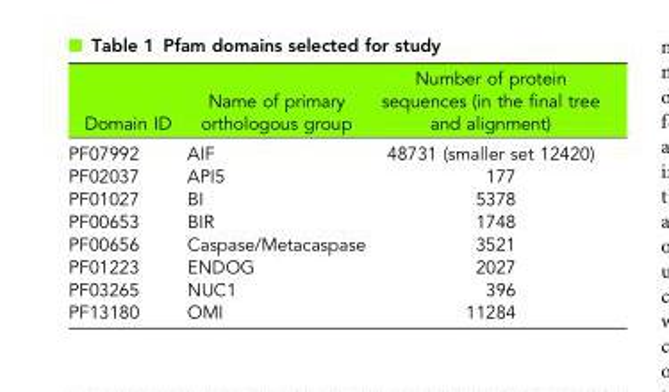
<table><thead><tr><td>Domain ID</td><td>Name of primary orthologous group</td><td>Number of protein sequences (in the final tree and alignment)</td></tr></thead><tbody><tr><td>PF07992</td><td>AIF</td><td>48731 (smaller set 12420)</td></tr><tr><td>PF02037</td><td>API5</td><td>177</td></tr><tr><td>PF01027</td><td>BI</td><td>5378</td></tr><tr><td>PF00653</td><td>BIR</td><td>1748</td></tr><tr><td>PF00656</td><td>Caspase/Metacaspase</td><td>3521</td></tr><tr><td>PF01223</td><td>ENDOG</td><td>2027</td></tr><tr><td>PF03265</td><td>NUC1</td><td>396</td></tr><tr><td>PF13180</td><td>OMI</td><td>11284</td></tr></tbody></table>